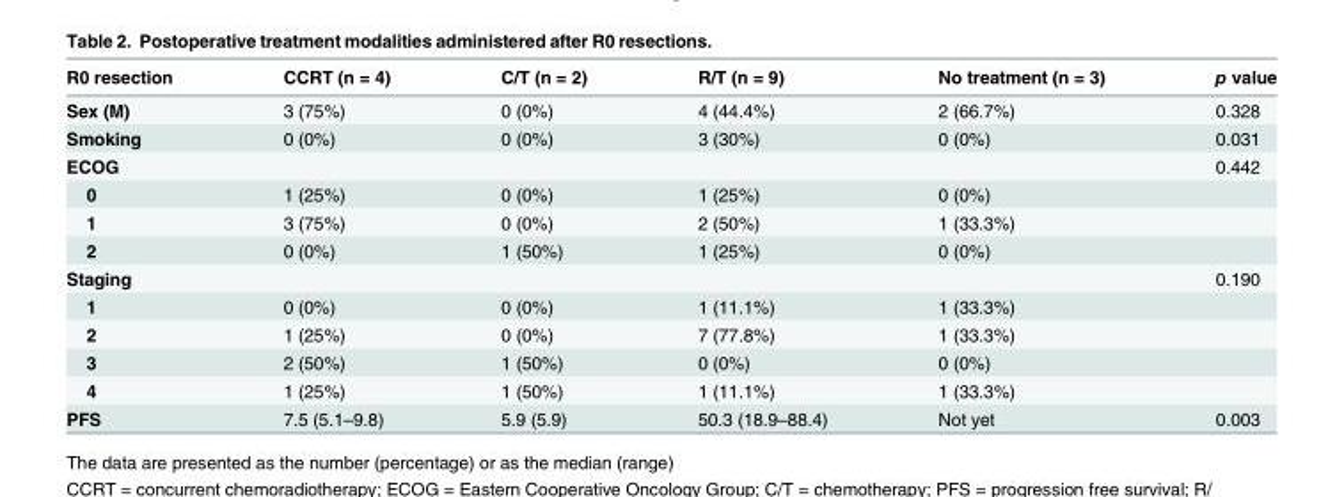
<table><thead><tr><td>R0 resection</td><td>CCRT (n = 4)</td><td>C/T (n = 2)</td><td>R/T (n = 9)</td><td>No treatment (n = 3)</td><td>p value</td></tr></thead><tbody><tr><td>Sex (M)</td><td>3 (75%)</td><td>0 (0%)</td><td>4 (44.4%)</td><td>2 (66.7%)</td><td>0.328</td></tr><tr><td>Smoking</td><td>0 (0%)</td><td>0 (0%)</td><td>3 (30%)</td><td>0 (0%)</td><td>0.031</td></tr><tr><td>ECOG</td><td></td><td></td><td></td><td></td><td>0.442</td></tr><tr><td>0</td><td>1 (25%)</td><td>0 (0%)</td><td>1 (25%)</td><td>0 (0%)</td><td></td></tr><tr><td>1</td><td>3 (75%)</td><td>0 (0%)</td><td>2 (50%)</td><td>1 (33.3%)</td><td></td></tr><tr><td>2</td><td>0 (0%)</td><td>1 (50%)</td><td>1 (25%)</td><td>0 (0%)</td><td></td></tr><tr><td>Staging</td><td></td><td></td><td></td><td></td><td>0.190</td></tr><tr><td>1</td><td>0 (0%)</td><td>0 (0%)</td><td>1 (11.1%)</td><td>1 (33.3%)</td><td></td></tr><tr><td>2</td><td>1 (25%)</td><td>0 (0%)</td><td>7 (77.8%)</td><td>1 (33.3%)</td><td></td></tr><tr><td>3</td><td>2 (50%)</td><td>1 (50%)</td><td>0 (0%)</td><td>0 (0%)</td><td></td></tr><tr><td>4</td><td>1 (25%)</td><td>1 (50%)</td><td>1 (11.1%)</td><td>1 (33.3%)</td><td></td></tr><tr><td>PFS</td><td>7.5 (5.1–9.8)</td><td>5.9 (5.9)</td><td>50.3 (18.9–88.4)</td><td>Not yet</td><td>0.003</td></tr></tbody></table>